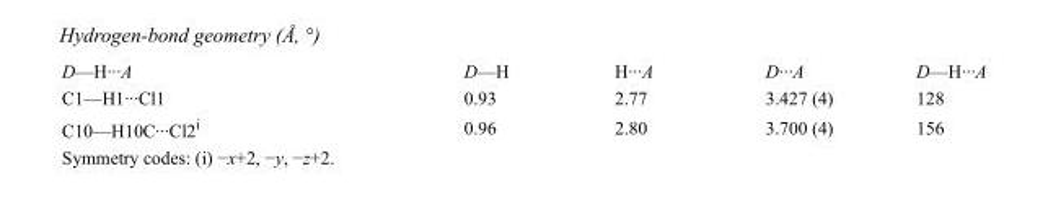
<table><tbody><tr><td>D—H···A</td><td>D—H</td><td>H···A</td><td>D···A</td><td>D—H···A</td></tr><tr><td>C1—H1···Cl1</td><td>0.93</td><td>2.77</td><td>3.427 (4)</td><td>128</td></tr><tr><td>C10—H10C···Cl2<sup>i</sup></td><td>0.96</td><td>2.80</td><td>3.700 (4)</td><td>156</td></tr></tbody></table>